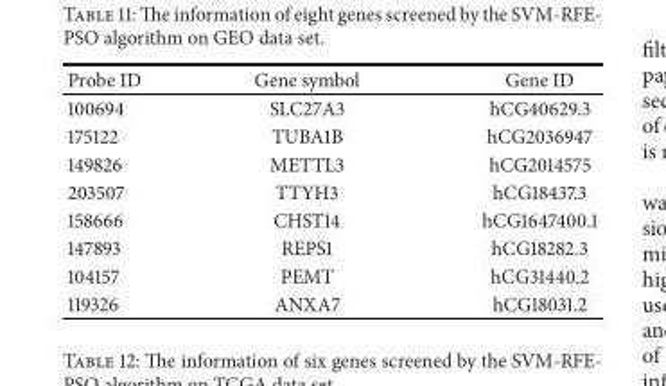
<table><thead><tr><td>Probe ID</td><td>Gene symbol</td><td>Gene ID</td></tr></thead><tbody><tr><td>100694</td><td>SLC27A3</td><td>hCG40629.3</td></tr><tr><td>175122</td><td>TUBA1B</td><td>hCG2036947</td></tr><tr><td>149826</td><td>METTL3</td><td>hCG2014575</td></tr><tr><td>203507</td><td>TTYH3</td><td>hCG18437.3</td></tr><tr><td>158666</td><td>CHST14</td><td>hCG1647400.1</td></tr><tr><td>147893</td><td>REPS1</td><td>hCG18282.3</td></tr><tr><td>104157</td><td>PEMT</td><td>hCG31440.2</td></tr><tr><td>119326</td><td>ANXA7</td><td>hCG18031.2</td></tr></tbody></table>